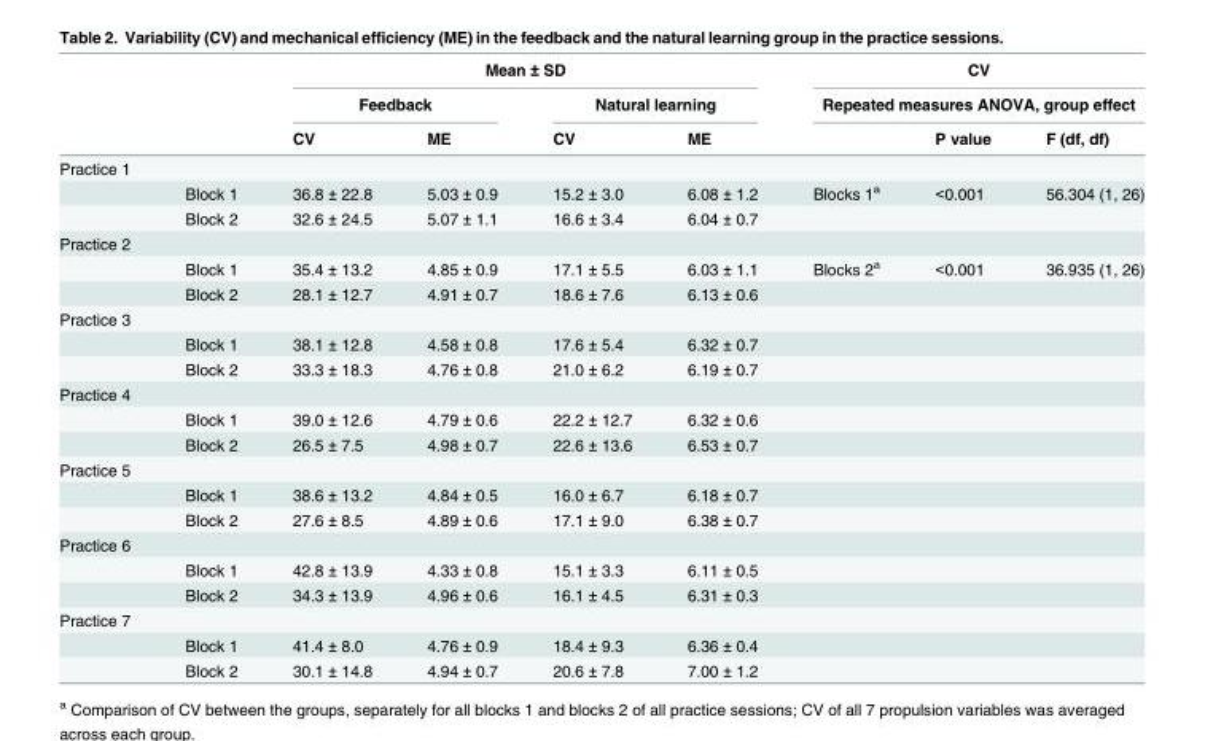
<table><thead><tr><td rowspan="3"></td><td rowspan="3"></td><td colspan="4">Mean ± SD</td><td rowspan="2" colspan="3">CV Repeated measures ANOVA, group effect</td></tr><tr><td colspan="2">Feedback</td><td colspan="2">Natural learning</td></tr><tr><td>CV</td><td>ME</td><td>CV</td><td>ME</td><td></td><td>P value</td><td>F (df, df)</td></tr></thead><tbody><tr><td colspan="9">Practice 1</td></tr><tr><td></td><td>Block 1</td><td>36.8 ± 22.8</td><td>5.03 ± 0.9</td><td>15.2 ± 3.0</td><td>6.08 ± 1.2</td><td>Blocks 1<sup>a</sup></td><td>&lt;0.001</td><td>56.304 (1, 26)</td></tr><tr><td></td><td>Block 2</td><td>32.6 ± 24.5</td><td>5.07 ± 1.1</td><td>16.6 ± 3.4</td><td>6.04 ± 0.7</td><td></td><td></td><td></td></tr><tr><td colspan="9">Practice 2</td></tr><tr><td></td><td>Block 1</td><td>35.4 ± 13.2</td><td>4.85 ± 0.9</td><td>17.1 ± 5.5</td><td>6.03 ± 1.1</td><td>Blocks 2<sup>a</sup></td><td>&lt;0.001</td><td>36.935 (1, 26)</td></tr><tr><td></td><td>Block 2</td><td>28.1 ± 12.7</td><td>4.91 ± 0.7</td><td>18.6 ± 7.6</td><td>6.13 ± 0.6</td><td></td><td></td><td></td></tr><tr><td colspan="9">Practice 3</td></tr><tr><td></td><td>Block 1</td><td>38.1 ± 12.8</td><td>4.58 ± 0.8</td><td>17.6 ± 5.4</td><td>6.32 ± 0.7</td><td></td><td></td><td></td></tr><tr><td></td><td>Block 2</td><td>33.3 ± 18.3</td><td>4.76 ± 0.8</td><td>21.0 ± 6.2</td><td>6.19 ± 0.7</td><td></td><td></td><td></td></tr><tr><td colspan="9">Practice 4</td></tr><tr><td></td><td>Block 1</td><td>39.0 ± 12.6</td><td>4.79 ± 0.6</td><td>22.2 ± 12.7</td><td>6.32 ± 0.6</td><td></td><td></td><td></td></tr><tr><td></td><td>Block 2</td><td>26.5 ± 7.5</td><td>4.98 ± 0.7</td><td>22.6 ± 13.6</td><td>6.53 ± 0.7</td><td></td><td></td><td></td></tr><tr><td colspan="9">Practice 5</td></tr><tr><td></td><td>Block 1</td><td>38.6 ± 13.2</td><td>4.84 ± 0.5</td><td>16.0 ± 6.7</td><td>6.18 ± 0.7</td><td></td><td></td><td></td></tr><tr><td></td><td>Block 2</td><td>27.6 ± 8.5</td><td>4.89 ± 0.6</td><td>17.1 ± 9.0</td><td>6.38 ± 0.7</td><td></td><td></td><td></td></tr><tr><td colspan="9">Practice 6</td></tr><tr><td></td><td>Block 1</td><td>42.8 ± 13.9</td><td>4.33 ± 0.8</td><td>15.1 ± 3.3</td><td>6.11 ± 0.5</td><td></td><td></td><td></td></tr><tr><td></td><td>Block 2</td><td>34.3 ± 13.9</td><td>4.96 ± 0.6</td><td>16.1 ± 4.5</td><td>6.31 ± 0.3</td><td></td><td></td><td></td></tr><tr><td colspan="9">Practice 7</td></tr><tr><td></td><td>Block 1</td><td>41.4 ± 8.0</td><td>4.76 ± 0.9</td><td>18.4 ± 9.3</td><td>6.36 ± 0.4</td><td></td><td></td><td></td></tr><tr><td></td><td>Block 2</td><td>30.1 ± 14.8</td><td>4.94 ± 0.7</td><td>20.6 ± 7.8</td><td>7.00 ± 1.2</td><td></td><td></td><td></td></tr></tbody></table>